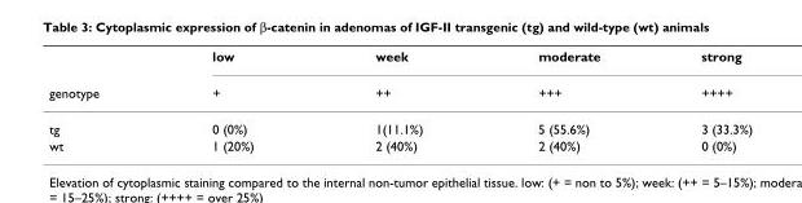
<table><thead><tr><td rowspan="2">genotype</td><td rowspan="2">low +</td><td rowspan="2">week ++</td><td rowspan="2">moderate +++</td><td rowspan="2">strong ++++</td></tr><tr></tr></thead><tbody><tr><td>tg</td><td>0 (0%)</td><td>1(11.1%)</td><td>5 (55.6%)</td><td>3 (33.3%)</td></tr><tr><td>wt</td><td>1 (20%)</td><td>2 (40%)</td><td>2 (40%)</td><td>0 (0%)</td></tr></tbody></table>